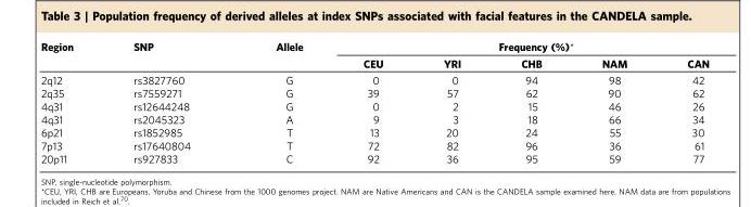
<table><thead><tr><td rowspan="2">Region</td><td rowspan="2">SNP</td><td rowspan="2">Allele</td><td colspan="5">Frequency (%)*</td></tr><tr><td>CEU</td><td>YRI</td><td>CHB</td><td>NAM</td><td>CAN</td></tr></thead><tbody><tr><td>2q12</td><td>rs3827760</td><td>G</td><td>0</td><td>0</td><td>94</td><td>98</td><td>42</td></tr><tr><td>2q35</td><td>rs7559271</td><td>G</td><td>39</td><td>57</td><td>62</td><td>90</td><td>62</td></tr><tr><td>4q31</td><td>rs12644248</td><td>G</td><td>0</td><td>2</td><td>15</td><td>46</td><td>26</td></tr><tr><td>4q31</td><td>rs2045323</td><td>A</td><td>9</td><td>3</td><td>18</td><td>66</td><td>34</td></tr><tr><td>6p21</td><td>rs1852985</td><td>T</td><td>13</td><td>20</td><td>24</td><td>55</td><td>30</td></tr><tr><td>7p13</td><td>rs17640804</td><td>T</td><td>72</td><td>82</td><td>96</td><td>36</td><td>61</td></tr><tr><td>20p11</td><td>rs927833</td><td>C</td><td>92</td><td>36</td><td>95</td><td>59</td><td>77</td></tr></tbody></table>